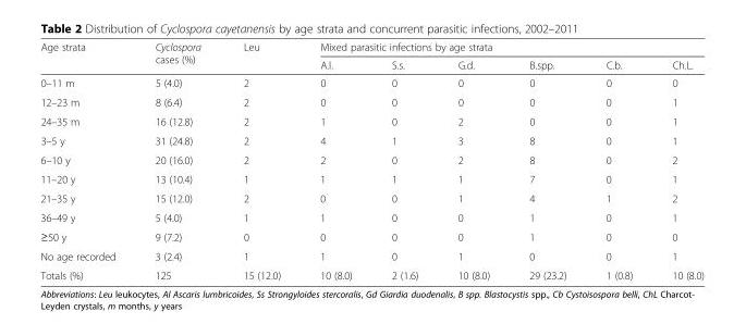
<table><thead><tr><td rowspan="2">Age strata</td><td rowspan="2">Cyclospora cases (%)</td><td rowspan="2">Leu</td><td colspan="6">Mixed parasitic infections by age strata</td></tr><tr><td>A.l.</td><td>S.s.</td><td>G.d.</td><td>B.spp.</td><td>C.b.</td><td>Ch.L.</td></tr></thead><tbody><tr><td>0–11 m</td><td>5 (4.0)</td><td>2</td><td>0</td><td>0</td><td>0</td><td>0</td><td>0</td><td>0</td></tr><tr><td>12–23 m</td><td>8 (6.4)</td><td>2</td><td>0</td><td>0</td><td>0</td><td>0</td><td>0</td><td>1</td></tr><tr><td>24–35 m</td><td>16 (12.8)</td><td>2</td><td>1</td><td>0</td><td>2</td><td>0</td><td>0</td><td>1</td></tr><tr><td>3–5 y</td><td>31 (24.8)</td><td>2</td><td>4</td><td>1</td><td>3</td><td>8</td><td>0</td><td>1</td></tr><tr><td>6–10 y</td><td>20 (16.0)</td><td>2</td><td>2</td><td>0</td><td>2</td><td>8</td><td>0</td><td>2</td></tr><tr><td>11–20 y</td><td>13 (10.4)</td><td>1</td><td>1</td><td>1</td><td>1</td><td>7</td><td>0</td><td>1</td></tr><tr><td>21–35 y</td><td>15 (12.0)</td><td>2</td><td>0</td><td>0</td><td>1</td><td>4</td><td>1</td><td>2</td></tr><tr><td>36–49 y</td><td>5 (4.0)</td><td>1</td><td>1</td><td>0</td><td>0</td><td>1</td><td>0</td><td>1</td></tr><tr><td>≥50 y</td><td>9 (7.2)</td><td>0</td><td>0</td><td>0</td><td>0</td><td>1</td><td>0</td><td>0</td></tr><tr><td>No age recorded</td><td>3 (2.4)</td><td>1</td><td>1</td><td>0</td><td>1</td><td>0</td><td>0</td><td>1</td></tr><tr><td>Totals (%)</td><td>125</td><td>15 (12.0)</td><td>10 (8.0)</td><td>2 (1.6)</td><td>10 (8.0)</td><td>29 (23.2)</td><td>1 (0.8)</td><td>10 (8.0)</td></tr></tbody></table>